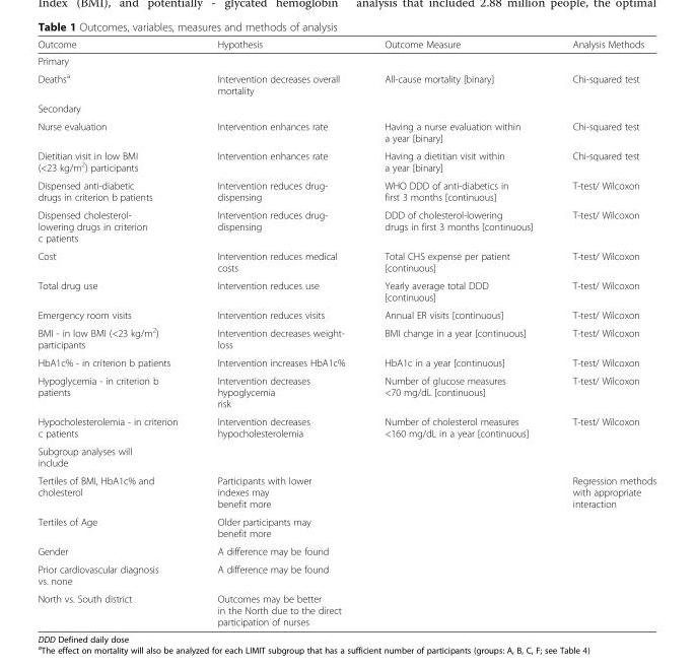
<table><thead><tr><td>Outcome</td><td>Hypothesis</td><td>Outcome Measure</td><td>Analysis Methods</td></tr></thead><tbody><tr><td colspan="4">Primary</td></tr><tr><td>Deaths<sup>a</sup></td><td>Intervention decreases overall mortality</td><td>All-cause mortality [binary]</td><td>Chi-squared test</td></tr><tr><td colspan="4">Secondary</td></tr><tr><td>Nurse evaluation</td><td>Intervention enhances rate</td><td>Having a nurse evaluation within a year [binary]</td><td>Chi-squared test</td></tr><tr><td>Dietitian visit in low BMI (&lt;23 kg/m<sup>2</sup>) participants</td><td>Intervention enhances rate</td><td>Having a dietitian visit within a year [binary]</td><td>Chi-squared test</td></tr><tr><td>Dispensed anti-diabetic drugs in criterion b patients</td><td>Intervention reduces drug- dispensing</td><td>WHO DDD of anti-diabetics in first 3 months [continuous]</td><td>T-test/ Wilcoxon</td></tr><tr><td>Dispensed cholesterol- lowering drugs in criterion c patients</td><td>Intervention reduces drug- dispensing</td><td>DDD of cholesterol-lowering drugs in first 3 months [continuous]</td><td>T-test/ Wilcoxon</td></tr><tr><td>Cost</td><td>Intervention reduces medical costs</td><td>Total CHS expense per patient [continuous]</td><td>T-test/ Wilcoxon</td></tr><tr><td>Total drug use</td><td>Intervention reduces use</td><td>Yearly average total DDD [continuous]</td><td>T-test/ Wilcoxon</td></tr><tr><td>Emergency room visits</td><td>Intervention reduces visits</td><td>Annual ER visits [continuous]</td><td>T-test/ Wilcoxon</td></tr><tr><td>BMI - in low BMI (&lt;23 kg/m<sup>2</sup>) participants</td><td>Intervention decreases weight- loss</td><td>BMI change in a year [continuous]</td><td>T-test/ Wilcoxon</td></tr><tr><td>HbA1c% - in criterion b patients</td><td>Intervention increases HbA1c%</td><td>HbA1c in a year [continuous]</td><td>T-test/ Wilcoxon</td></tr><tr><td>Hypoglycemia - in criterion b patients</td><td>Intervention decreases hypoglycemia risk</td><td>Number of glucose measures &lt;70 mg/dL [continuous]</td><td>T-test/ Wilcoxon</td></tr><tr><td>Hypocholesterolemia - in criterion c patients</td><td>Intervention decreases hypocholesterolemia</td><td>Number of cholesterol measures &lt;160 mg/dL in a year [continuous]</td><td>T-test/ Wilcoxon</td></tr><tr><td colspan="4">Subgroup analyses will include</td></tr><tr><td>Tertiles of BMI, HbA1c% and cholesterol</td><td>Participants with lower indexes may benefit more</td><td></td><td>Regression methods with appropriate interaction</td></tr><tr><td>Tertiles of Age</td><td>Older participants may benefit more</td><td></td><td></td></tr><tr><td>Gender</td><td>A difference may be found</td><td></td><td></td></tr><tr><td>Prior cardiovascular diagnosis vs. none</td><td>A difference may be found</td><td></td><td></td></tr><tr><td>North vs. South district</td><td>Outcomes may be better in the North due to the direct participation of nurses</td><td></td><td></td></tr></tbody></table>